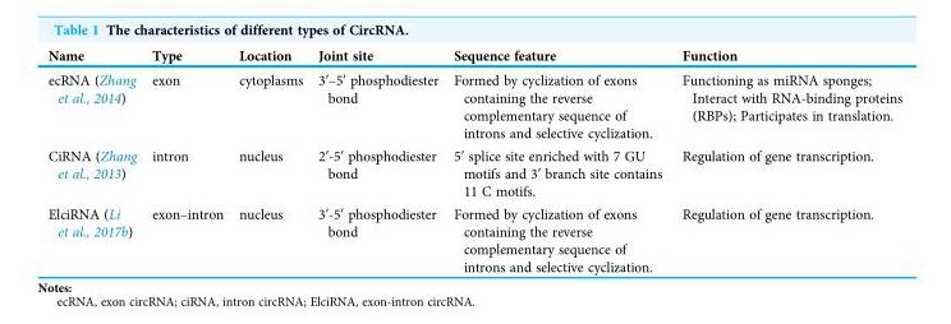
<table><thead><tr><td>Name</td><td>Type</td><td>Location</td><td>Joint site</td><td>Sequence feature</td><td>Function</td></tr></thead><tbody><tr><td>ecRNA (Zhang et al., 2014)</td><td>exon</td><td>cytoplasms</td><td>3′–5′ phosphodiester bond</td><td>Formed by cyclization of exons containing the reverse complementary sequence of introns and selective cyclization.</td><td>Functioning as miRNA sponges; Interact with RNA-binding proteins (RBPs); Participates in translation.</td></tr><tr><td>CiRNA (Zhang et al., 2013)</td><td>intron</td><td>nucleus</td><td>2′-5′ phosphodiester bond</td><td>5′ splice site enriched with 7 GU motifs and 3′ branch site contains 11 C motifs.</td><td>Regulation of gene transcription.</td></tr><tr><td>ElciRNA (Li et al., 2017b)</td><td>exon–intron</td><td>nucleus</td><td>3′-5′ phosphodiester bond</td><td>Formed by cyclization of exons containing the reverse complementary sequence of introns and selective cyclization.</td><td>Regulation of gene transcription.</td></tr></tbody></table>